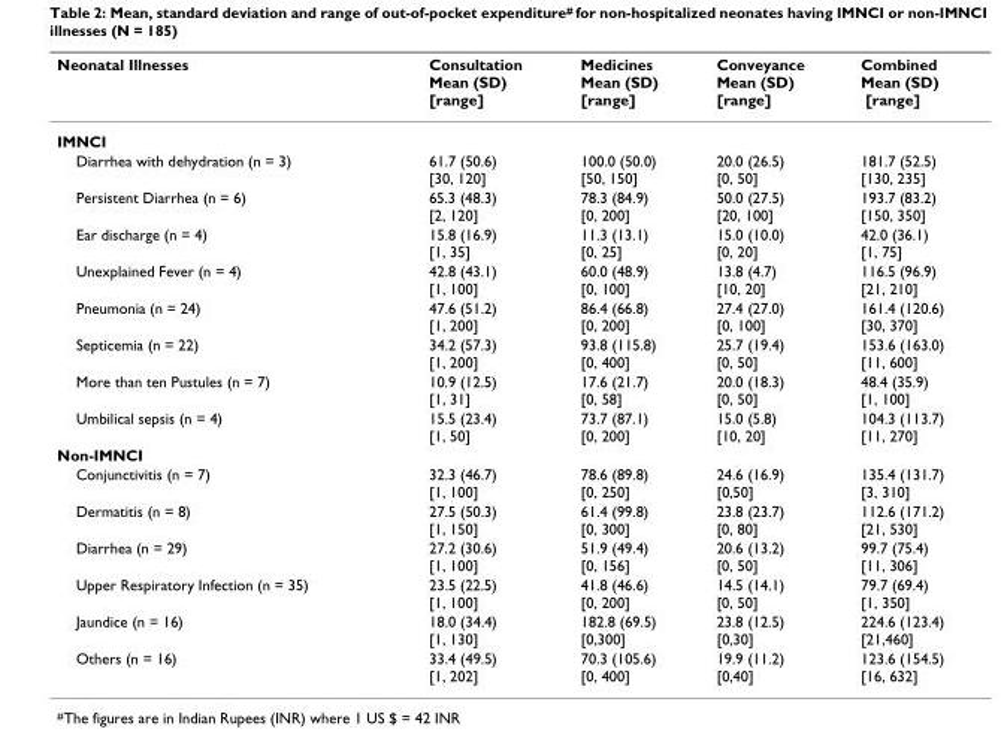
<table><thead><tr><td>Neonatal Illnesses</td><td>Consultation Mean (SD) [range]</td><td>Medicines Mean (SD) [range]</td><td>Conveyance Mean (SD) [range]</td><td>Combined Mean (SD) [range]</td></tr></thead><tbody><tr><td colspan="5">IMNCI</td></tr><tr><td>Diarrhea with dehydration (n = 3)</td><td>61.7 (50.6) [30, 120]</td><td>100.0 (50.0) [50, 150]</td><td>20.0 (26.5) [0, 50]</td><td>181.7 (52.5) [130, 235]</td></tr><tr><td>Persistent Diarrhea (n = 6)</td><td>65.3 (48.3) [2, 120]</td><td>78.3 (84.9) [0, 200]</td><td>50.0 (27.5) [20, 100]</td><td>193.7 (83.2) [150, 350]</td></tr><tr><td>Ear discharge (n = 4)</td><td>15.8 (16.9) [1, 35]</td><td>11.3 (13.1) [0, 25]</td><td>15.0 (10.0) [0, 20]</td><td>42.0 (36.1) [1, 75]</td></tr><tr><td>Unexplained Fever (n = 4)</td><td>42.8 (43.1) [1, 100]</td><td>60.0 (48.9) [0, 100]</td><td>13.8 (4.7) [10, 20]</td><td>116.5 (96.9) [21, 210]</td></tr><tr><td>Pneumonia (n = 24)</td><td>47.6 (51.2) [1, 200]</td><td>86.4 (66.8) [0, 200]</td><td>27.4 (27.0) [0, 100]</td><td>161.4 (120.6) [30, 370]</td></tr><tr><td>Septicemia (n = 22)</td><td>34.2 (57.3) [1, 200]</td><td>93.8 (115.8) [0, 400]</td><td>25.7 (19.4) [0, 50]</td><td>153.6 (163.0) [11, 600]</td></tr><tr><td>More than ten Pustules (n = 7)</td><td>10.9 (12.5) [1, 31]</td><td>17.6 (21.7) [0, 58]</td><td>20.0 (18.3) [0, 50]</td><td>48.4 (35.9) [1, 100]</td></tr><tr><td>Umbilical sepsis (n = 4)</td><td>15.5 (23.4) [1, 50]</td><td>73.7 (87.1) [0, 200]</td><td>15.0 (5.8) [10, 20]</td><td>104.3 (113.7) [11, 270]</td></tr><tr><td colspan="5">Non-IMNCI</td></tr><tr><td>Conjunctivitis (n = 7)</td><td>32.3 (46.7) [1, 100]</td><td>78.6 (89.8) [0, 250]</td><td>24.6 (16.9) [0,50]</td><td>135.4 (131.7) [3, 310]</td></tr><tr><td>Dermatitis (n = 8)</td><td>27.5 (50.3) [1, 150]</td><td>61.4 (99.8) [0, 300]</td><td>23.8 (23.7) [0, 80]</td><td>112.6 (171.2) [21, 530]</td></tr><tr><td>Diarrhea (n = 29)</td><td>27.2 (30.6) [1, 100]</td><td>51.9 (49.4) [0, 156]</td><td>20.6 (13.2) [0, 50]</td><td>99.7 (75.4) [11, 306]</td></tr><tr><td>Upper Respiratory Infection (n = 35)</td><td>23.5 (22.5) [1, 100]</td><td>41.8 (46.6) [0, 200]</td><td>14.5 (14.1) [0, 50]</td><td>79.7 (69.4) [1, 350]</td></tr><tr><td>Jaundice (n = 16)</td><td>18.0 (34.4) [1, 130]</td><td>182.8 (69.5) [0,300]</td><td>23.8 (12.5) [0,30]</td><td>224.6 (123.4) [21,460]</td></tr><tr><td>Others (n = 16)</td><td>33.4 (49.5) [1, 202]</td><td>70.3 (105.6) [0, 400]</td><td>19.9 (11.2) [0,40]</td><td>123.6 (154.5) [16, 632]</td></tr></tbody></table>